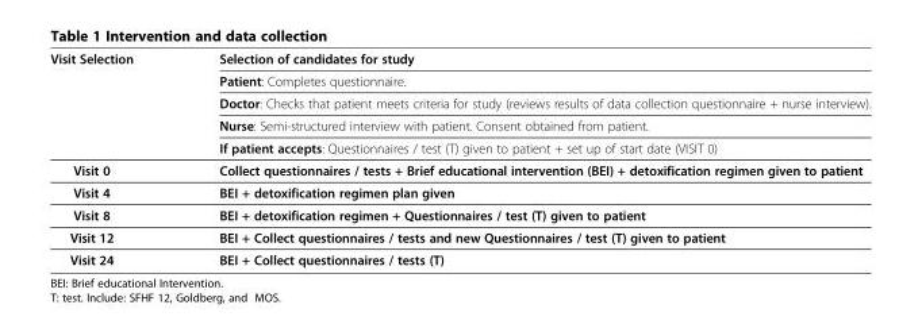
<table><tbody><tr><td rowspan="5">Visit Selection</td><td>Selection of candidates for study</td></tr><tr><td>Patient: Completes questionnaire.</td></tr><tr><td>Doctor: Checks that patient meets criteria for study (reviews results of data collection questionnaire + nurse interview).</td></tr><tr><td>Nurse: Semi-structured interview with patient. Consent obtained from patient.</td></tr><tr><td>If patient accepts: Questionnaires / test (T) given to patient + set up of start date (VISIT 0)</td></tr><tr><td>Visit 0</td><td>Collect questionnaires / tests + Brief educational intervention (BEI) + detoxification regimen given to patient</td></tr><tr><td>Visit 4</td><td>BEI + detoxification regimen plan given</td></tr><tr><td>Visit 8</td><td>BEI + detoxification regimen + Questionnaires / test (T) given to patient</td></tr><tr><td>Visit 12</td><td>BEI + Collect questionnaires / tests and new Questionnaires / test (T) given to patient</td></tr><tr><td>Visit 24</td><td>BEI + Collect questionnaires / tests (T)</td></tr></tbody></table>